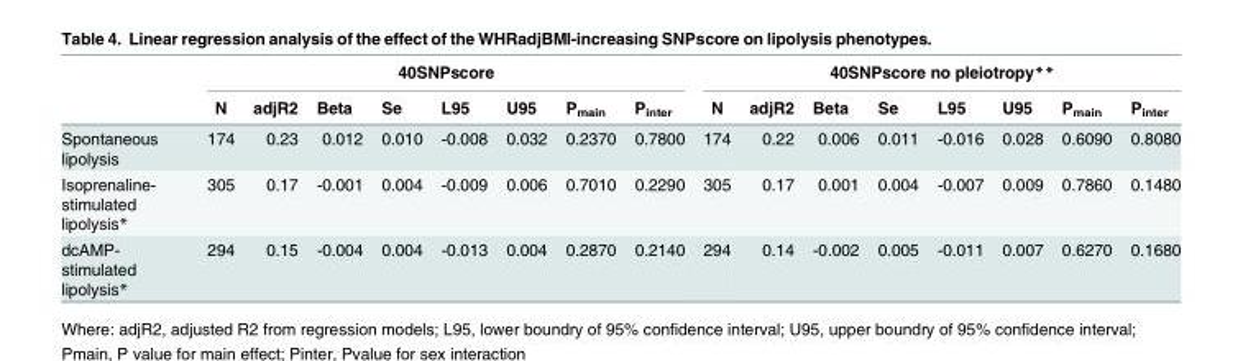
<table><thead><tr><td rowspan="2"></td><td colspan="8">40SNPscore</td><td colspan="8">40SNPscore no pleiotropy**</td></tr><tr><td>N</td><td>adjR2</td><td>Beta</td><td>Se</td><td>L95</td><td>U95</td><td>P<sub>main</sub></td><td>P<sub>inter</sub></td><td>N</td><td>adjR2</td><td>Beta</td><td>Se</td><td>L95</td><td>U95</td><td>P<sub>main</sub></td><td>P<sub>inter</sub></td></tr></thead><tbody><tr><td>Spontaneous lipolysis</td><td>174</td><td>0.23</td><td>0.012</td><td>0.010</td><td>-0.008</td><td>0.032</td><td>0.2370</td><td>0.7800</td><td>174</td><td>0.22</td><td>0.006</td><td>0.011</td><td>-0.016</td><td>0.028</td><td>0.6090</td><td>0.8080</td></tr><tr><td>Isoprenaline- stimulated lipolysis*</td><td>305</td><td>0.17</td><td>-0.001</td><td>0.004</td><td>-0.009</td><td>0.006</td><td>0.7010</td><td>0.2290</td><td>305</td><td>0.17</td><td>0.001</td><td>0.004</td><td>-0.007</td><td>0.009</td><td>0.7860</td><td>0.1480</td></tr><tr><td>dcAMP- stimulated lipolysis*</td><td>294</td><td>0.15</td><td>-0.004</td><td>0.004</td><td>-0.013</td><td>0.004</td><td>0.2870</td><td>0.2140</td><td>294</td><td>0.14</td><td>-0.002</td><td>0.005</td><td>-0.011</td><td>0.007</td><td>0.6270</td><td>0.1680</td></tr></tbody></table>